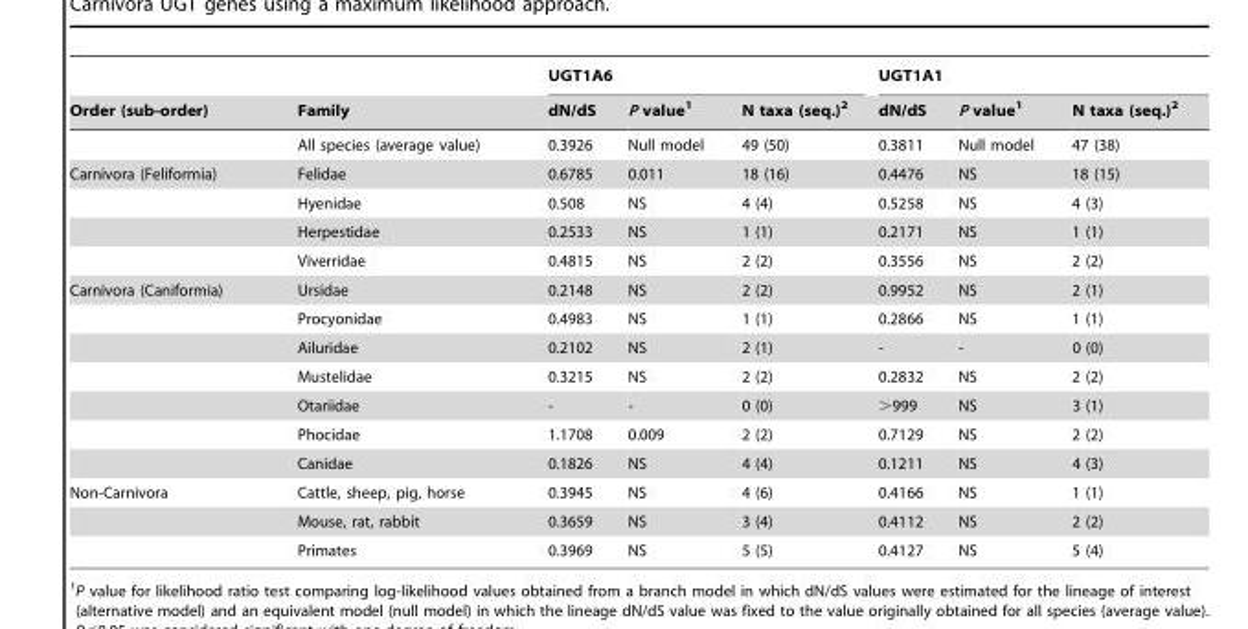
<table><thead><tr><td rowspan="2">Order (sub-order)</td><td rowspan="2">Family</td><td colspan="3">UGT1A6</td><td colspan="3">UGT1A1</td></tr><tr><td>dN/dS</td><td>P value<sup>1</sup></td><td>N taxa (seq.)<sup>2</sup></td><td>dN/dS</td><td>P value<sup>1</sup></td><td>N taxa (seq.)<sup>2</sup></td></tr></thead><tbody><tr><td></td><td>All species (average value)</td><td>0.3926</td><td>Null model</td><td>49 (50)</td><td>0.3811</td><td>Null model</td><td>47 (38)</td></tr><tr><td rowspan="4">Carnivora (Feliformia)</td><td>Felidae</td><td>0.6785</td><td>0.011</td><td>18 (16)</td><td>0.4476</td><td>NS</td><td>18 (15)</td></tr><tr><td>Hyenidae</td><td>0.508</td><td>NS</td><td>4 (4)</td><td>0.5258</td><td>NS</td><td>4 (3)</td></tr><tr><td>Herpestidae</td><td>0.2533</td><td>NS</td><td>1 (1)</td><td>0.2171</td><td>NS</td><td>1 (1)</td></tr><tr><td>Viverridae</td><td>0.4815</td><td>NS</td><td>2 (2)</td><td>0.3556</td><td>NS</td><td>2 (2)</td></tr><tr><td rowspan="7">Carnivora (Caniformia)</td><td>Ursidae</td><td>0.2148</td><td>NS</td><td>2 (2)</td><td>0.9952</td><td>NS</td><td>2 (1)</td></tr><tr><td>Procyonidae</td><td>0.4983</td><td>NS</td><td>1 (1)</td><td>0.2866</td><td>NS</td><td>1 (1)</td></tr><tr><td>Ailuridae</td><td>0.2102</td><td>NS</td><td>2 (1)</td><td>-</td><td>-</td><td>0 (0)</td></tr><tr><td>Mustelidae</td><td>0.3215</td><td>NS</td><td>2 (2)</td><td>0.2832</td><td>NS</td><td>2 (2)</td></tr><tr><td>Otariidae</td><td>-</td><td>-</td><td>0 (0)</td><td>&gt;999</td><td>NS</td><td>3 (1)</td></tr><tr><td>Phocidae</td><td>1.1708</td><td>0.009</td><td>2 (2)</td><td>0.7129</td><td>NS</td><td>2 (2)</td></tr><tr><td>Canidae</td><td>0.1826</td><td>NS</td><td>4 (4)</td><td>0.1211</td><td>NS</td><td>4 (3)</td></tr><tr><td rowspan="3">Non-Carnivora</td><td>Cattle, sheep, pig, horse</td><td>0.3945</td><td>NS</td><td>4 (6)</td><td>0.4166</td><td>NS</td><td>1 (1)</td></tr><tr><td>Mouse, rat, rabbit</td><td>0.3659</td><td>NS</td><td>3 (4)</td><td>0.4112</td><td>NS</td><td>2 (2)</td></tr><tr><td>Primates</td><td>0.3969</td><td>NS</td><td>5 (5)</td><td>0.4127</td><td>NS</td><td>5 (4)</td></tr></tbody></table>